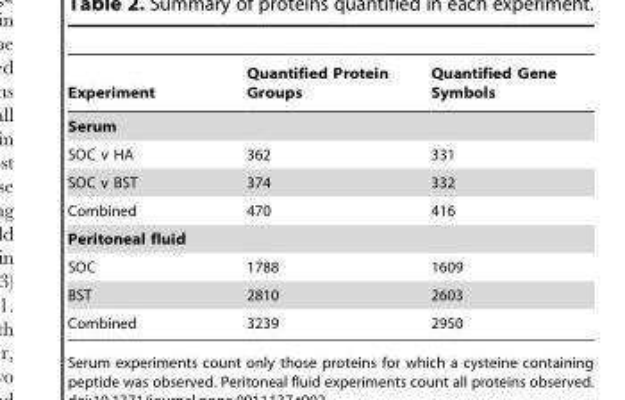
<table><thead><tr><td>Experiment</td><td>Quantified Protein Groups</td><td>Quantified Gene Symbols</td></tr></thead><tbody><tr><td colspan="3">Serum</td></tr><tr><td>SOC v HA</td><td>362</td><td>331</td></tr><tr><td>SOC v BST</td><td>374</td><td>332</td></tr><tr><td>Combined</td><td>470</td><td>416</td></tr><tr><td colspan="3">Peritoneal fluid</td></tr><tr><td>SOC</td><td>1788</td><td>1609</td></tr><tr><td>BST</td><td>2810</td><td>2603</td></tr><tr><td>Combined</td><td>3239</td><td>2950</td></tr></tbody></table>